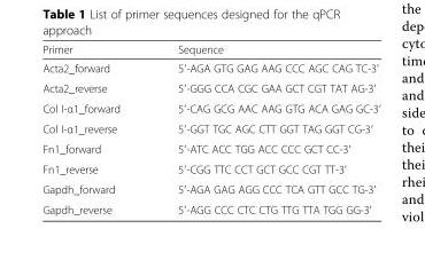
<table><thead><tr><td>Primer</td><td>Sequence</td></tr></thead><tbody><tr><td>Acta2_forward</td><td>5′-AGA GTG GAG AAG CCC AGC CAG TC-3′</td></tr><tr><td>Acta2_reverse</td><td>5′-GGG CCA CGC GAA GCT CGT TAT AG-3′</td></tr><tr><td>Col I-α1_forward</td><td>5′-CAG GCG AAC AAG GTG ACA GAG GC-3′</td></tr><tr><td>Col I-α1_reverse</td><td>5′-GGT TGC AGC CTT GGT TAG GGT CG-3′</td></tr><tr><td>Fn1_forward</td><td>5′-ATC ACC TGG ACC CCC GCT CC-3′</td></tr><tr><td>Fn1_reverse</td><td>5′-CGG TTC CCT GCT GCC CGT TT-3′</td></tr><tr><td>Gapdh_forward</td><td>5′-AGA GAG AGG CCC TCA GTT GCC TG-3′</td></tr><tr><td>Gapdh_reverse</td><td>5′-AGG CCC CTC CTG TTG TTA TGG GG-3′</td></tr></tbody></table>